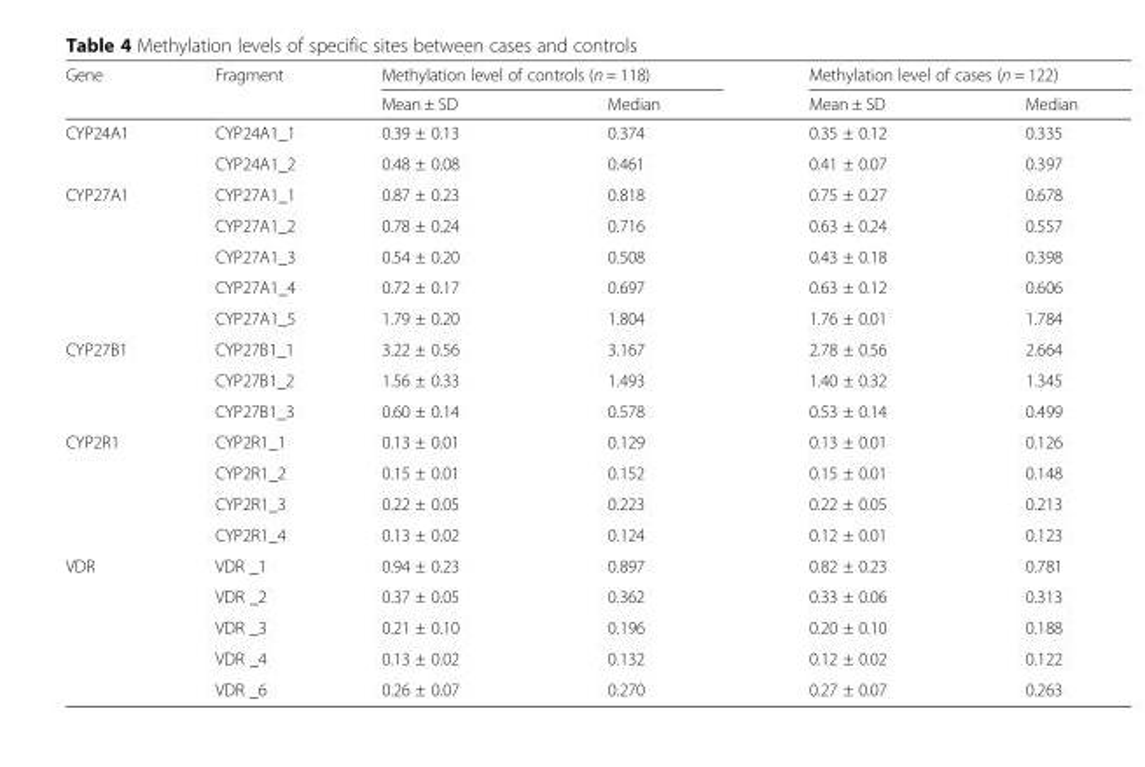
<table><thead><tr><td rowspan="2">Gene</td><td rowspan="2">Fragment</td><td colspan="2">Methylation level of controls (n = 118)</td><td colspan="2">Methylation level of cases (n = 122)</td></tr><tr><td>Mean ± SD</td><td>Median</td><td>Mean ± SD</td><td>Median</td></tr></thead><tbody><tr><td rowspan="2">CYP24A1</td><td>CYP24A1_1</td><td>0.39 ± 0.13</td><td>0.374</td><td>0.35 ± 0.12</td><td>0.335</td></tr><tr><td>CYP24A1_2</td><td>0.48 ± 0.08</td><td>0.461</td><td>0.41 ± 0.07</td><td>0.397</td></tr><tr><td rowspan="5">CYP27A1</td><td>CYP27A1_1</td><td>0.87 ± 0.23</td><td>0.818</td><td>0.75 ± 0.27</td><td>0.678</td></tr><tr><td>CYP27A1_2</td><td>0.78 ± 0.24</td><td>0.716</td><td>0.63 ± 0.24</td><td>0.557</td></tr><tr><td>CYP27A1_3</td><td>0.54 ± 0.20</td><td>0.508</td><td>0.43 ± 0.18</td><td>0.398</td></tr><tr><td>CYP27A1_4</td><td>0.72 ± 0.17</td><td>0.697</td><td>0.63 ± 0.12</td><td>0.606</td></tr><tr><td>CYP27A1_5</td><td>1.79 ± 0.20</td><td>1.804</td><td>1.76 ± 0.01</td><td>1.784</td></tr><tr><td rowspan="3">CYP27B1</td><td>CYP27B1_1</td><td>3.22 ± 0.56</td><td>3.167</td><td>2.78 ± 0.56</td><td>2.664</td></tr><tr><td>CYP27B1_2</td><td>1.56 ± 0.33</td><td>1.493</td><td>1.40 ± 0.32</td><td>1.345</td></tr><tr><td>CYP27B1_3</td><td>0.60 ± 0.14</td><td>0.578</td><td>0.53 ± 0.14</td><td>0.499</td></tr><tr><td rowspan="4">CYP2R1</td><td>CYP2R1_1</td><td>0.13 ± 0.01</td><td>0.129</td><td>0.13 ± 0.01</td><td>0.126</td></tr><tr><td>CYP2R1_2</td><td>0.15 ± 0.01</td><td>0.152</td><td>0.15 ± 0.01</td><td>0.148</td></tr><tr><td>CYP2R1_3</td><td>0.22 ± 0.05</td><td>0.223</td><td>0.22 ± 0.05</td><td>0.213</td></tr><tr><td>CYP2R1_4</td><td>0.13 ± 0.02</td><td>0.124</td><td>0.12 ± 0.01</td><td>0.123</td></tr><tr><td rowspan="5">VDR</td><td>VDR _1</td><td>0.94 ± 0.23</td><td>0.897</td><td>0.82 ± 0.23</td><td>0.781</td></tr><tr><td>VDR _2</td><td>0.37 ± 0.05</td><td>0.362</td><td>0.33 ± 0.06</td><td>0.313</td></tr><tr><td>VDR _3</td><td>0.21 ± 0.10</td><td>0.196</td><td>0.20 ± 0.10</td><td>0.188</td></tr><tr><td>VDR _4</td><td>0.13 ± 0.02</td><td>0.132</td><td>0.12 ± 0.02</td><td>0.122</td></tr><tr><td>VDR _6</td><td>0.26 ± 0.07</td><td>0.270</td><td>0.27 ± 0.07</td><td>0.263</td></tr></tbody></table>